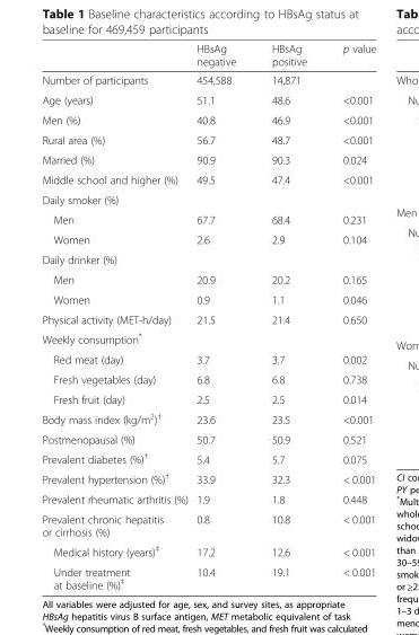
<table><thead><tr><td></td><td>HBsAg negative</td><td>HBsAg positive</td><td>p value</td></tr></thead><tbody><tr><td>Number of participants</td><td>454,588</td><td>14,871</td><td></td></tr><tr><td>Age (years)</td><td>51.1</td><td>48.6</td><td>&lt;0.001</td></tr><tr><td>Men (%)</td><td>40.8</td><td>46.9</td><td>&lt;0.001</td></tr><tr><td>Rural area (%)</td><td>56.7</td><td>48.7</td><td>&lt;0.001</td></tr><tr><td>Married (%)</td><td>90.9</td><td>90.3</td><td>0.024</td></tr><tr><td>Middle school and higher (%)</td><td>49.5</td><td>47.4</td><td>&lt;0.001</td></tr><tr><td colspan="4">Daily smoker (%)</td></tr><tr><td>Men</td><td>67.7</td><td>68.4</td><td>0.231</td></tr><tr><td>Women</td><td>2.6</td><td>2.9</td><td>0.104</td></tr><tr><td colspan="4">Daily drinker (%)</td></tr><tr><td>Men</td><td>20.9</td><td>20.2</td><td>0.165</td></tr><tr><td>Women</td><td>0.9</td><td>1.1</td><td>0.046</td></tr><tr><td>Physical activity (MET-h/day)</td><td>21.5</td><td>21.4</td><td>0.650</td></tr><tr><td colspan="4">Weekly consumption*</td></tr><tr><td>Red meat (day)</td><td>3.7</td><td>3.7</td><td>0.002</td></tr><tr><td>Fresh vegetables (day)</td><td>6.8</td><td>6.8</td><td>0.738</td></tr><tr><td>Fresh fruit (day)</td><td>2.5</td><td>2.5</td><td>0.014</td></tr><tr><td>Body mass index (kg/m<sup>2</sup>)<sup>†</sup></td><td>23.6</td><td>23.5</td><td>&lt;0.001</td></tr><tr><td>Postmenopausal (%)</td><td>50.7</td><td>50.9</td><td>0.521</td></tr><tr><td>Prevalent diabetes (%)<sup>†</sup></td><td>5.4</td><td>5.7</td><td>0.075</td></tr><tr><td>Prevalent hypertension (%)<sup>†</sup></td><td>33.9</td><td>32.3</td><td>&lt; 0.001</td></tr><tr><td>Prevalent rheumatic arthritis (%)</td><td>1.9</td><td>1.8</td><td>0.448</td></tr><tr><td>Prevalent chronic hepatitis or cirrhosis (%)</td><td>0.8</td><td>10.8</td><td>&lt; 0.001</td></tr><tr><td>Medical history (years)<sup>‡</sup></td><td>17.2</td><td>12.6</td><td>&lt; 0.001</td></tr><tr><td>Under treatment at baseline (%)<sup>‡</sup></td><td>10.4</td><td>19.1</td><td>&lt; 0.001</td></tr></tbody></table>